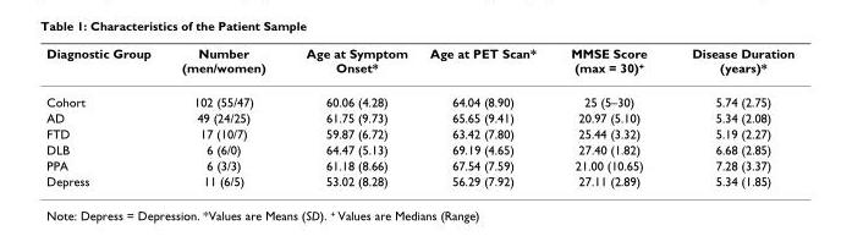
<table><thead><tr><td>Diagnostic Group</td><td>Number (men/women)</td><td>Age at Symptom Onset*</td><td>Age at PET Scan*</td><td>MMSE Score (max = 30)<sup>+</sup></td><td>Disease Duration (years)*</td></tr></thead><tbody><tr><td>Cohort</td><td>102 (55/47)</td><td>60.06 (4.28)</td><td>64.04 (8.90)</td><td>25 (5–30)</td><td>5.74 (2.75)</td></tr><tr><td>AD</td><td>49 (24/25)</td><td>61.75 (9.73)</td><td>65.65 (9.41)</td><td>20.97 (5.10)</td><td>5.34 (2.08)</td></tr><tr><td>FTD</td><td>17 (10/7)</td><td>59.87 (6.72)</td><td>63.42 (7.80)</td><td>25.44 (3.32)</td><td>5.19 (2.27)</td></tr><tr><td>DLB</td><td>6 (6/0)</td><td>64.47 (5.13)</td><td>69.19 (4.65)</td><td>27.40 (1.82)</td><td>6.68 (2.85)</td></tr><tr><td>PPA</td><td>6 (3/3)</td><td>61.18 (8.66)</td><td>67.54 (7.59)</td><td>21.00 (10.65)</td><td>7.28 (3.37)</td></tr><tr><td>Depress</td><td>11 (6/5)</td><td>53.02 (8.28)</td><td>56.29 (7.92)</td><td>27.11 (2.89)</td><td>5.34 (1.85)</td></tr></tbody></table>